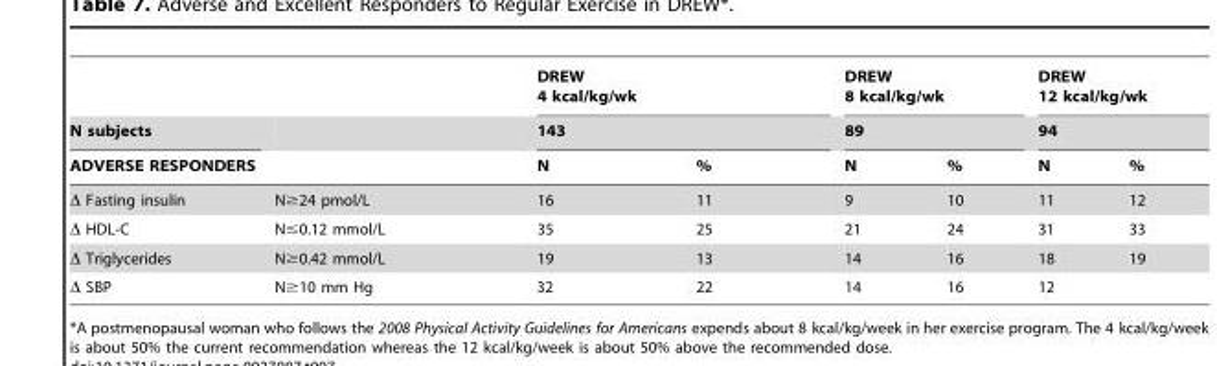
<table><thead><tr><td rowspan="2">N subjects</td><td rowspan="2"></td><td rowspan="2" colspan="2">DREW 4 kcal/kg/wk 143</td><td rowspan="2" colspan="2">DREW 8 kcal/kg/wk 89</td><td rowspan="2" colspan="2">DREW 12 kcal/kg/wk 94</td></tr><tr></tr><tr><td colspan="2">ADVERSE RESPONDERS</td><td>N</td><td>%</td><td>N</td><td>%</td><td>N</td><td>%</td></tr></thead><tbody><tr><td>Δ Fasting insulin</td><td>N≥24 pmol/L</td><td>16</td><td>11</td><td>9</td><td>10</td><td>11</td><td>12</td></tr><tr><td>Δ HDL-C</td><td>N≤0.12 mmol/L</td><td>35</td><td>25</td><td>21</td><td>24</td><td>31</td><td>33</td></tr><tr><td>Δ Triglycerides</td><td>N≥0.42 mmol/L</td><td>19</td><td>13</td><td>14</td><td>16</td><td>18</td><td>19</td></tr><tr><td>Δ SBP</td><td>N≥10 mm Hg</td><td>32</td><td>22</td><td>14</td><td>16</td><td>12</td><td></td></tr></tbody></table>